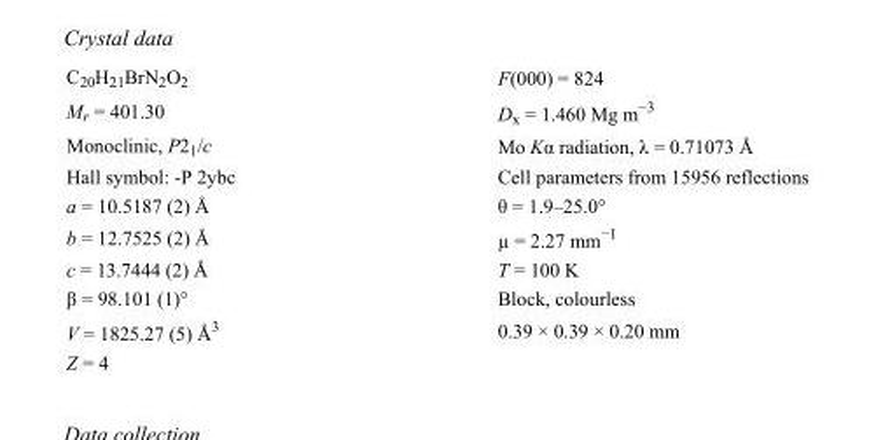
<table><tbody><tr><td>C<sub>20</sub>H<sub>21</sub>BrN<sub>2</sub>O<sub>2</sub></td><td>F(000) = 824</td></tr><tr><td>M<sub>r</sub> = 401.30</td><td>D<sub>x</sub> = 1.460 Mg m<sup>−3</sup></td></tr><tr><td>Monoclinic, P2<sub>1</sub>/c</td><td>Mo Kα radiation, λ = 0.71073 Å</td></tr><tr><td>Hall symbol: -P 2ybc</td><td>Cell parameters from 15956 reflections</td></tr><tr><td>a = 10.5187 (2) Å</td><td>θ = 1.9–25.0°</td></tr><tr><td>b = 12.7525 (2) Å</td><td>µ = 2.27 mm<sup>−1</sup></td></tr><tr><td>c = 13.7444 (2) Å</td><td>T = 100 K</td></tr><tr><td>β = 98.101 (1)°</td><td>Block, colourless</td></tr><tr><td>V = 1825.27 (5) Å<sup>3</sup></td><td>0.39 × 0.39 × 0.20 mm</td></tr><tr><td>Z = 4</td><td></td></tr></tbody></table>